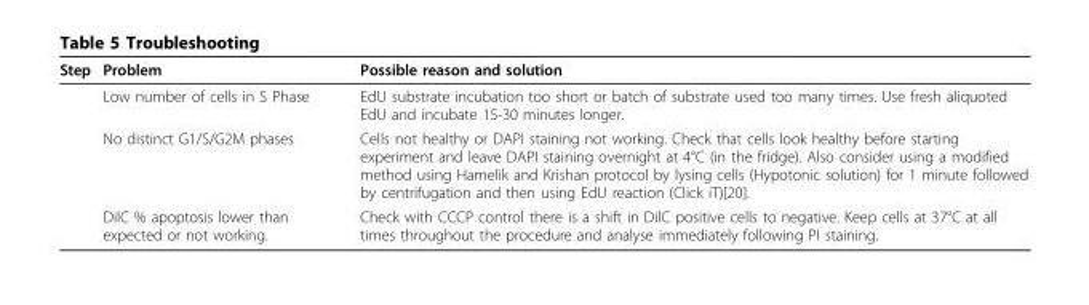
<table><thead><tr><td>Step</td><td>Problem</td><td>Possible reason and solution</td></tr></thead><tbody><tr><td></td><td>Low number of cells in S Phase</td><td>EdU substrate incubation too short or batch of substrate used too many times. Use fresh aliquoted EdU and incubate 15-30 minutes longer.</td></tr><tr><td></td><td>No distinct G1/S/G2M phases</td><td>Cells not healthy or DAPI staining not working. Check that cells look healthy before starting experiment and leave DAPI staining overnight at 4°C (in the fridge). Also consider using a modified method using Hamelik and Krishan protocol by lysing cells (Hypotonic solution) for 1 minute followed by centrifugation and then using EdU reaction (Click iT)[20].</td></tr><tr><td></td><td>DilC % apoptosis lower than expected or not working.</td><td>Check with CCCP control there is a shift in DilC positive cells to negative. Keep cells at 37°C at all times throughout the procedure and analyse immediately following PI staining.</td></tr></tbody></table>